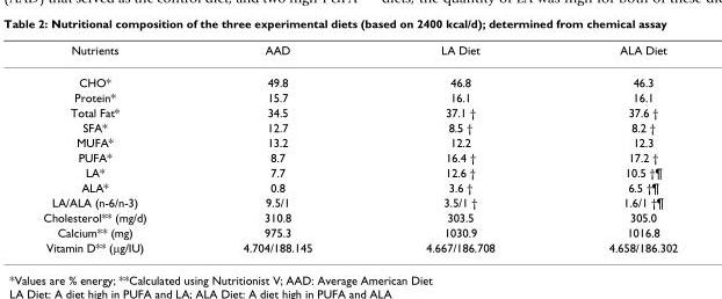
<table><thead><tr><td>Nutrients</td><td>AAD</td><td>LA Diet</td><td>ALA Diet</td></tr></thead><tbody><tr><td>CHO*</td><td>49.8</td><td>46.8</td><td>46.3</td></tr><tr><td>Protein*</td><td>15.7</td><td>16.1</td><td>16.1</td></tr><tr><td>Total Fat*</td><td>34.5</td><td>37.1 †</td><td>37.6 †</td></tr><tr><td>SFA*</td><td>12.7</td><td>8.5 †</td><td>8.2 †</td></tr><tr><td>MUFA*</td><td>13.2</td><td>12.2</td><td>12.3</td></tr><tr><td>PUFA*</td><td>8.7</td><td>16.4 †</td><td>17.2 †</td></tr><tr><td>LA*</td><td>7.7</td><td>12.6 †</td><td>10.5 †¶</td></tr><tr><td>ALA*</td><td>0.8</td><td>3.6 †</td><td>6.5 †¶</td></tr><tr><td>LA/ALA (n-6/n-3)</td><td>9.5/1</td><td>3.5/1 †</td><td>1.6/1 †¶</td></tr><tr><td>Cholesterol** (mg/d)</td><td>310.8</td><td>303.5</td><td>305.0</td></tr><tr><td>Calcium** (mg)</td><td>975.3</td><td>1030.9</td><td>1016.8</td></tr><tr><td>Vitamin D** (μg/IU)</td><td>4.704/188.145</td><td>4.667/186.708</td><td>4.658/186.302</td></tr></tbody></table>